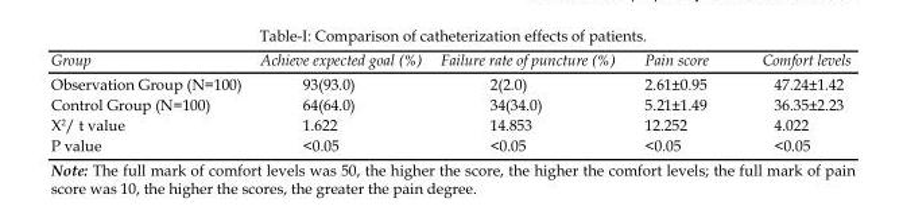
<table><thead><tr><td>Group</td><td>Achieve expected goal (%)</td><td>Failure rate of puncture (%)</td><td>Pain score</td><td>Comfort levels</td></tr></thead><tbody><tr><td>Observation Group (N=100)</td><td>93(93.0)</td><td>2(2.0)</td><td>2.61±0.95</td><td>47.24±1.42</td></tr><tr><td>Control Group (N=100)</td><td>64(64.0)</td><td>34(34.0)</td><td>5.21±1.49</td><td>36.35±2.23</td></tr><tr><td>X<sup>2</sup>/ t value</td><td>1.622</td><td>14.853</td><td>12.252</td><td>4.022</td></tr><tr><td>P value</td><td>&lt;0.05</td><td>&lt;0.05</td><td>&lt;0.05</td><td>&lt;0.05</td></tr></tbody></table>